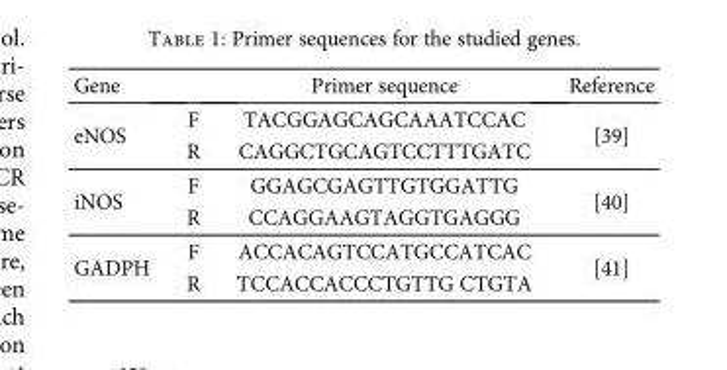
<table><thead><tr><td>Gene</td><td></td><td>Primer sequence</td><td>Reference</td></tr></thead><tbody><tr><td rowspan="2">eNOS</td><td>F</td><td>TACGGAGCAGCAAATCCAC</td><td rowspan="2">[39]</td></tr><tr><td>R</td><td>CAGGCTGCAGTCCTTTGATC</td></tr><tr><td rowspan="2">iNOS</td><td>F</td><td>GGAGCGAGTTGTGGATTG</td><td rowspan="2">[40]</td></tr><tr><td>R</td><td>CCAGGAAGTAGGTGAGGG</td></tr><tr><td rowspan="2">GADPH</td><td>F</td><td>ACCACAGTCCATGCCATCAC</td><td rowspan="2">[41]</td></tr><tr><td>R</td><td>TCCACCACCCTGTTG CTGTA</td></tr></tbody></table>